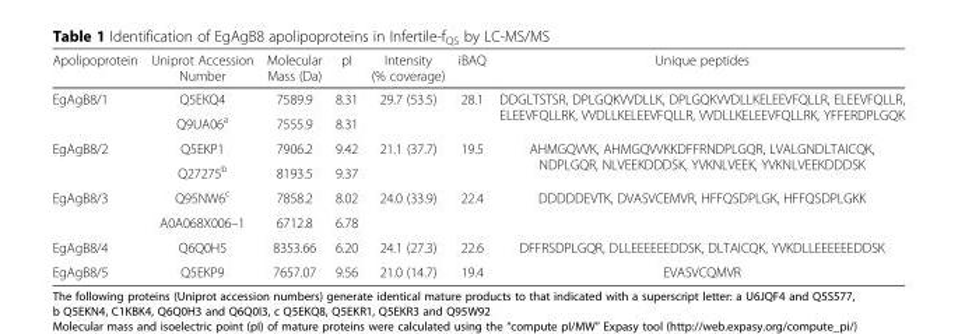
<table><thead><tr><td>Apolipoprotein</td><td>Uniprot Accession Number</td><td>Molecular Mass (Da)</td><td>pI</td><td>Intensity (% coverage)</td><td>iBAQ</td><td>Unique peptides</td></tr></thead><tbody><tr><td rowspan="2">EgAgB8/1</td><td>Q5EKQ4</td><td>7589.9</td><td>8.31</td><td rowspan="2">29.7 (53.5)</td><td rowspan="2">28.1</td><td rowspan="2">DDGLTSTSR, DPLGQKVVDLLK, DPLGQKVVDLLKELEEVFQLLR, ELEEVFQLLR, ELEEVFQLLRK, VVDLLKELEEVFQLLR, VVDLLKELEEVFQLLRK, YFFERDPLGQK</td></tr><tr><td>Q9UA06<sup>a</sup></td><td>7555.9</td><td>8.31</td></tr><tr><td rowspan="2">EgAgB8/2</td><td>Q5EKP1</td><td>7906.2</td><td>9.42</td><td rowspan="2">21.1 (37.7)</td><td rowspan="2">19.5</td><td rowspan="2">AHMGQVVK, AHMGQVVKKDFFRNDPLGQR, LVALGNDLTAICQK, NDPLGQR, NLVEEKDDDSK, YVKNLVEEK, YVKNLVEEKDDDSK</td></tr><tr><td>Q27275<sup>b</sup></td><td>8193.5</td><td>9.37</td></tr><tr><td rowspan="2">EgAgB8/3</td><td>Q95NW6<sup>c</sup></td><td>7858.2</td><td>8.02</td><td rowspan="2">24.0 (33.9)</td><td rowspan="2">22.4</td><td rowspan="2">DDDDDEVTK, DVASVCEMVR, HFFQSDPLGK, HFFQSDPLGKK</td></tr><tr><td>A0A068X006–1</td><td>6712.8</td><td>6.78</td></tr><tr><td>EgAgB8/4</td><td>Q6Q0H5</td><td>8353.66</td><td>6.20</td><td>24.1 (27.3)</td><td>22.6</td><td>DFFRSDPLGQR, DLLEEEEEEDDSK, DLTAICQK, YVKDLLEEEEEEDDSK</td></tr><tr><td>EgAgB8/5</td><td>Q5EKP9</td><td>7657.07</td><td>9.56</td><td>21.0 (14.7)</td><td>19.4</td><td>EVASVCQMVR</td></tr></tbody></table>